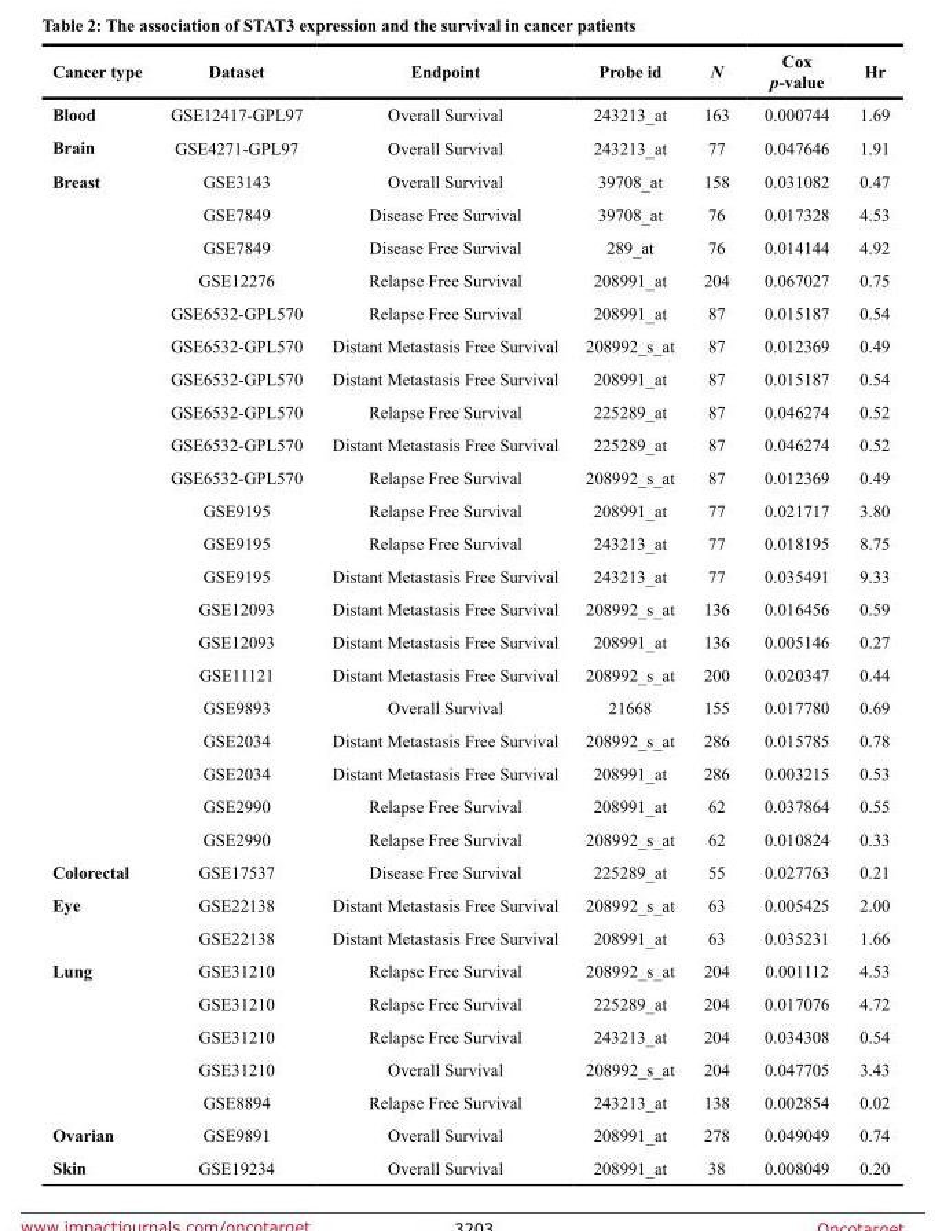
<table><thead><tr><td>Cancer type</td><td>Dataset</td><td>Endpoint</td><td>Probe id</td><td>N</td><td>Cox p-value</td><td>Hr</td></tr></thead><tbody><tr><td>Blood</td><td>GSE12417-GPL97</td><td>Overall Survival</td><td>243213_at</td><td>163</td><td>0.000744</td><td>1.69</td></tr><tr><td>Brain</td><td>GSE4271-GPL97</td><td>Overall Survival</td><td>243213_at</td><td>77</td><td>0.047646</td><td>1.91</td></tr><tr><td rowspan="21">Breast</td><td>GSE3143</td><td>Overall Survival</td><td>39708_at</td><td>158</td><td>0.031082</td><td>0.47</td></tr><tr><td>GSE7849</td><td>Disease Free Survival</td><td>39708_at</td><td>76</td><td>0.017328</td><td>4.53</td></tr><tr><td>GSE7849</td><td>Disease Free Survival</td><td>289_at</td><td>76</td><td>0.014144</td><td>4.92</td></tr><tr><td>GSE12276</td><td>Relapse Free Survival</td><td>208991_at</td><td>204</td><td>0.067027</td><td>0.75</td></tr><tr><td>GSE6532-GPL570</td><td>Relapse Free Survival</td><td>208991_at</td><td>87</td><td>0.015187</td><td>0.54</td></tr><tr><td>GSE6532-GPL570</td><td>Distant Metastasis Free Survival</td><td>208992_s_at</td><td>87</td><td>0.012369</td><td>0.49</td></tr><tr><td>GSE6532-GPL570</td><td>Distant Metastasis Free Survival</td><td>208991_at</td><td>87</td><td>0.015187</td><td>0.54</td></tr><tr><td>GSE6532-GPL570</td><td>Relapse Free Survival</td><td>225289_at</td><td>87</td><td>0.046274</td><td>0.52</td></tr><tr><td>GSE6532-GPL570</td><td>Distant Metastasis Free Survival</td><td>225289_at</td><td>87</td><td>0.046274</td><td>0.52</td></tr><tr><td>GSE6532-GPL570</td><td>Relapse Free Survival</td><td>208992_s_at</td><td>87</td><td>0.012369</td><td>0.49</td></tr><tr><td>GSE9195</td><td>Relapse Free Survival</td><td>208991_at</td><td>77</td><td>0.021717</td><td>3.80</td></tr><tr><td>GSE9195</td><td>Relapse Free Survival</td><td>243213_at</td><td>77</td><td>0.018195</td><td>8.75</td></tr><tr><td>GSE9195</td><td>Distant Metastasis Free Survival</td><td>243213_at</td><td>77</td><td>0.035491</td><td>9.33</td></tr><tr><td>GSE12093</td><td>Distant Metastasis Free Survival</td><td>208992_s_at</td><td>136</td><td>0.016456</td><td>0.59</td></tr><tr><td>GSE12093</td><td>Distant Metastasis Free Survival</td><td>208991_at</td><td>136</td><td>0.005146</td><td>0.27</td></tr><tr><td>GSE11121</td><td>Distant Metastasis Free Survival</td><td>208992_s_at</td><td>200</td><td>0.020347</td><td>0.44</td></tr><tr><td>GSE9893</td><td>Overall Survival</td><td>21668</td><td>155</td><td>0.017780</td><td>0.69</td></tr><tr><td>GSE2034</td><td>Distant Metastasis Free Survival</td><td>208992_s_at</td><td>286</td><td>0.015785</td><td>0.78</td></tr><tr><td>GSE2034</td><td>Distant Metastasis Free Survival</td><td>208991_at</td><td>286</td><td>0.003215</td><td>0.53</td></tr><tr><td>GSE2990</td><td>Relapse Free Survival</td><td>208991_at</td><td>62</td><td>0.037864</td><td>0.55</td></tr><tr><td>GSE2990</td><td>Relapse Free Survival</td><td>208992_s_at</td><td>62</td><td>0.010824</td><td>0.33</td></tr><tr><td>Colorectal</td><td>GSE17537</td><td>Disease Free Survival</td><td>225289_at</td><td>55</td><td>0.027763</td><td>0.21</td></tr><tr><td rowspan="2">Eye</td><td>GSE22138</td><td>Distant Metastasis Free Survival</td><td>208992_s_at</td><td>63</td><td>0.005425</td><td>2.00</td></tr><tr><td>GSE22138</td><td>Distant Metastasis Free Survival</td><td>208991_at</td><td>63</td><td>0.035231</td><td>1.66</td></tr><tr><td rowspan="5">Lung</td><td>GSE31210</td><td>Relapse Free Survival</td><td>208992_s_at</td><td>204</td><td>0.001112</td><td>4.53</td></tr><tr><td>GSE31210</td><td>Relapse Free Survival</td><td>225289_at</td><td>204</td><td>0.017076</td><td>4.72</td></tr><tr><td>GSE31210</td><td>Relapse Free Survival</td><td>243213_at</td><td>204</td><td>0.034308</td><td>0.54</td></tr><tr><td>GSE31210</td><td>Overall Survival</td><td>208992_s_at</td><td>204</td><td>0.047705</td><td>3.43</td></tr><tr><td>GSE8894</td><td>Relapse Free Survival</td><td>243213_at</td><td>138</td><td>0.002854</td><td>0.02</td></tr><tr><td>Ovarian</td><td>GSE9891</td><td>Overall Survival</td><td>208991_at</td><td>278</td><td>0.049049</td><td>0.74</td></tr><tr><td>Skin</td><td>GSE19234</td><td>Overall Survival</td><td>208991_at</td><td>38</td><td>0.008049</td><td>0.20</td></tr></tbody></table>